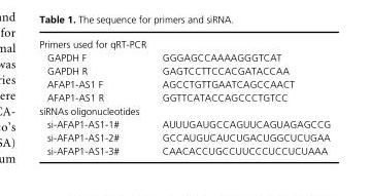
<table><tbody><tr><td colspan="2">Primers used for qRT- PCR</td></tr><tr><td>GAPDH F</td><td>GGGAGCCAAAAGGGTCAT</td></tr><tr><td>GAPDH R</td><td>GAGTCCTTCCACGATACCAA</td></tr><tr><td>AFAP1- AS1 F</td><td>AGCCTGTTGAATCAGCCAACT</td></tr><tr><td>AFAP1- AS1 R</td><td>GGTTCATACCAGCCCTGTCC</td></tr><tr><td colspan="2">siRNAs oligonucleotides</td></tr><tr><td>si- AFAP1- AS1- 1#</td><td>AUUUGAUGCCAGUUCAGUAGAGCCG</td></tr><tr><td>si- AFAP1- AS1- 2#</td><td>GCCAUGUCAUCUGACUGGCUCUGAA</td></tr><tr><td>si- AFAP1- AS1- 3#</td><td>CAACACCUGCCUUCCCUCCUCUAAA</td></tr></tbody></table>